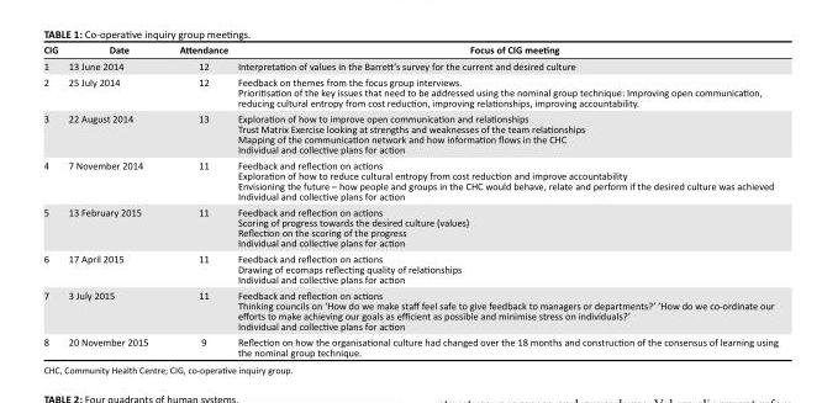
<table><thead><tr><td>CIG</td><td>Date</td><td>Attendance</td><td>Focus of CIG meeting</td></tr></thead><tbody><tr><td>1</td><td>13 June 2014</td><td>12</td><td>Interpretation of values in the Barrett’s survey for the current and desired culture</td></tr><tr><td>2</td><td>25 July 2014</td><td>12</td><td>Feedback on themes from the focus group interviews. Prioritisation of the key issues that need to be addressed using the nominal group technique: Improving open communication, reducing cultural entropy from cost reduction, improving relationships, improving accountability.</td></tr><tr><td>3</td><td>22 August 2014</td><td>13</td><td>Exploration of how to improve open communication and relationships Trust Matrix Exercise looking at strengths and weaknesses of the team relationships Mapping of the communication network and how information flows in the CHC Individual and collective plans for action</td></tr><tr><td>4</td><td>7 November 2014</td><td>11</td><td>Feedback and reflection on actions Exploration of how to reduce cultural entropy from cost reduction and improve accountability Envisioning the future – how people and groups in the CHC would behave, relate and perform if the desired culture was achieved Individual and collective plans for action</td></tr><tr><td>5</td><td>13 February 2015</td><td>11</td><td>Feedback and reflection on actions Scoring of progress towards the desired culture (values) Reflection on the scoring of the progress Individual and collective plans for action</td></tr><tr><td>6</td><td>17 April 2015</td><td>11</td><td>Feedback and reflection on actions Drawing of ecomaps reflecting quality of relationships Individual and collective plans for action</td></tr><tr><td>7</td><td>3 July 2015</td><td>11</td><td>Feedback and reflection on actions Thinking councils on ‘How do we make staff feel safe to give feedback to managers or departments?’ ’How do we co-ordinate our efforts to make achieving our goals as efficient as possible and minimise stress on individuals?’ Individual and collective plans for action</td></tr><tr><td>8</td><td>20 November 2015</td><td>9</td><td>Reflection on how the organisational culture had changed over the 18 months and construction of the consensus of learning using the nominal group technique.</td></tr></tbody></table>